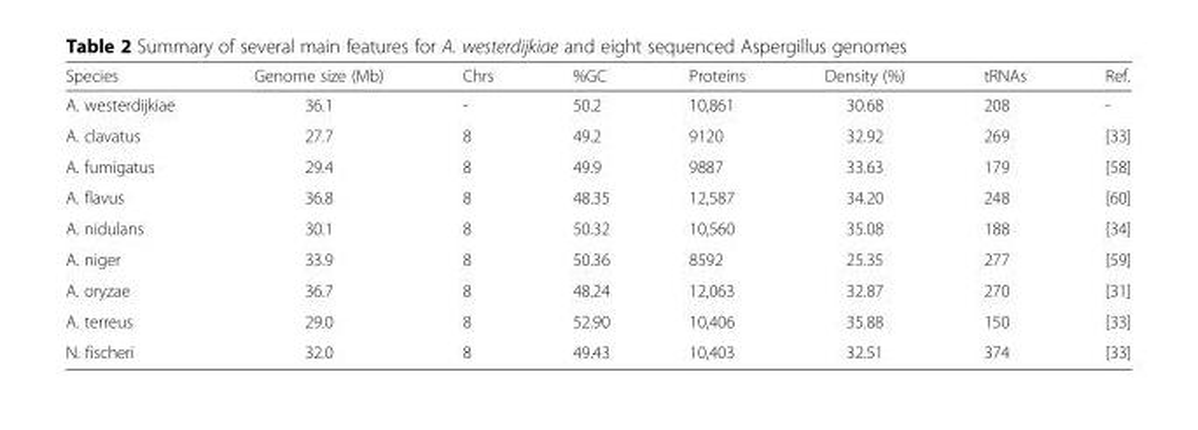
<table><thead><tr><td>Species</td><td>Genome size (Mb)</td><td>Chrs</td><td>%GC</td><td>Proteins</td><td>Density (%)</td><td>tRNAs</td><td>Ref.</td></tr></thead><tbody><tr><td>A. westerdijkiae</td><td>36.1</td><td>-</td><td>50.2</td><td>10,861</td><td>30.68</td><td>208</td><td>-</td></tr><tr><td>A. clavatus</td><td>27.7</td><td>8</td><td>49.2</td><td>9120</td><td>32.92</td><td>269</td><td>[33]</td></tr><tr><td>A. fumigatus</td><td>29.4</td><td>8</td><td>49.9</td><td>9887</td><td>33.63</td><td>179</td><td>[58]</td></tr><tr><td>A. flavus</td><td>36.8</td><td>8</td><td>48.35</td><td>12,587</td><td>34.20</td><td>248</td><td>[60]</td></tr><tr><td>A. nidulans</td><td>30.1</td><td>8</td><td>50.32</td><td>10,560</td><td>35.08</td><td>188</td><td>[34]</td></tr><tr><td>A. niger</td><td>33.9</td><td>8</td><td>50.36</td><td>8592</td><td>25.35</td><td>277</td><td>[59]</td></tr><tr><td>A. oryzae</td><td>36.7</td><td>8</td><td>48.24</td><td>12,063</td><td>32.87</td><td>270</td><td>[31]</td></tr><tr><td>A. terreus</td><td>29.0</td><td>8</td><td>52.90</td><td>10,406</td><td>35.88</td><td>150</td><td>[33]</td></tr><tr><td>N. fischeri</td><td>32.0</td><td>8</td><td>49.43</td><td>10,403</td><td>32.51</td><td>374</td><td>[33]</td></tr></tbody></table>